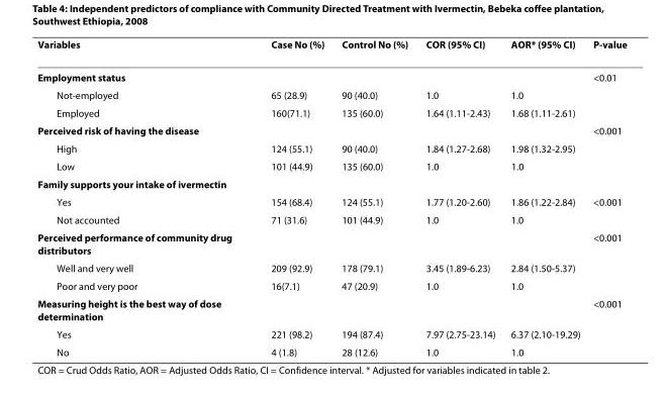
<table><thead><tr><td>Variables</td><td>Case No (%)</td><td>Control No (%)</td><td>COR (95% CI)</td><td>AOR* (95% CI)</td><td>P-value</td></tr></thead><tbody><tr><td>Employment status</td><td></td><td></td><td></td><td></td><td>&lt;0.01</td></tr><tr><td>Not-employed</td><td>65 (28.9)</td><td>90 (40.0)</td><td>1.0</td><td>1.0</td><td></td></tr><tr><td>Employed</td><td>160(71.1)</td><td>135 (60.0)</td><td>1.64 (1.11-2.43)</td><td>1.68 (1.11-2.61)</td><td></td></tr><tr><td>Perceived risk of having the disease</td><td></td><td></td><td></td><td></td><td>&lt;0.001</td></tr><tr><td>High</td><td>124 (55.1)</td><td>90 (40.0)</td><td>1.84 (1.27-2.68)</td><td>1.98 (1.32-2.95)</td><td></td></tr><tr><td>Low</td><td>101 (44.9)</td><td>135 (60.0)</td><td>1.0</td><td>1.0</td><td></td></tr><tr><td colspan="6">Family supports your intake of ivermectin</td></tr><tr><td>Yes</td><td>154 (68.4)</td><td>124 (55.1)</td><td>1.77 (1.20-2.60)</td><td>1.86 (1.22-2.84)</td><td>&lt;0.001</td></tr><tr><td>Not accounted</td><td>71 (31.6)</td><td>101 (44.9)</td><td>1.0</td><td>1.0</td><td></td></tr><tr><td>Perceived performance of community drug distributors</td><td></td><td></td><td></td><td></td><td>&lt;0.001</td></tr><tr><td>Well and very well</td><td>209 (92.9)</td><td>178 (79.1)</td><td>3.45 (1.89-6.23)</td><td>2.84 (1.50-5.37)</td><td></td></tr><tr><td>Poor and very poor</td><td>16(7.1)</td><td>47 (20.9)</td><td>1.0</td><td>1.0</td><td></td></tr><tr><td>Measuring height is the best way of dose determination</td><td></td><td></td><td></td><td></td><td>&lt;0.001</td></tr><tr><td>Yes</td><td>221 (98.2)</td><td>194 (87.4)</td><td>7.97 (2.75-23.14)</td><td>6.37 (2.10-19.29)</td><td></td></tr><tr><td>No</td><td>4 (1.8)</td><td>28 (12.6)</td><td>1.0</td><td>1.0</td><td></td></tr></tbody></table>